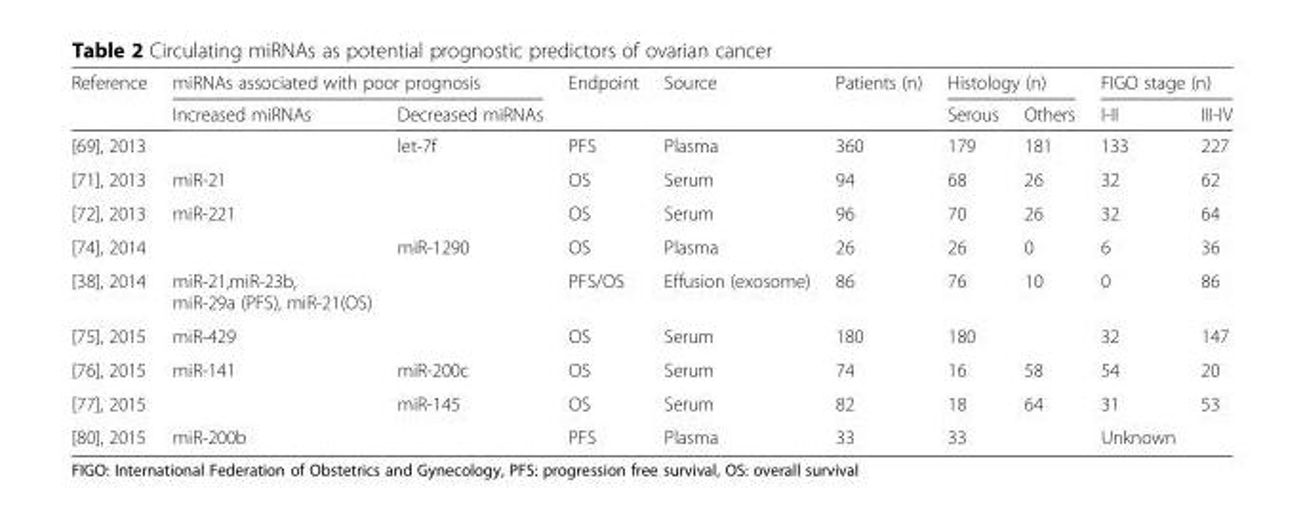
<table><thead><tr><td rowspan="2">Reference</td><td colspan="2">miRNAs associated with poor prognosis</td><td rowspan="2">Endpoint</td><td rowspan="2">Source</td><td rowspan="2">Patients (n)</td><td colspan="2">Histology (n)</td><td colspan="2">FIGO stage (n)</td></tr><tr><td>Increased miRNAs</td><td>Decreased miRNAs</td><td>Serous</td><td>Others</td><td>I-II</td><td>III-IV</td></tr></thead><tbody><tr><td>[69], 2013</td><td></td><td>let-7f</td><td>PFS</td><td>Plasma</td><td>360</td><td>179</td><td>181</td><td>133</td><td>227</td></tr><tr><td>[71], 2013</td><td>miR-21</td><td></td><td>OS</td><td>Serum</td><td>94</td><td>68</td><td>26</td><td>32</td><td>62</td></tr><tr><td>[72], 2013</td><td>miR-221</td><td></td><td>OS</td><td>Serum</td><td>96</td><td>70</td><td>26</td><td>32</td><td>64</td></tr><tr><td>[74], 2014</td><td></td><td>miR-1290</td><td>OS</td><td>Plasma</td><td>26</td><td>26</td><td>0</td><td>6</td><td>36</td></tr><tr><td>[38], 2014</td><td>miR-21,miR-23b, miR-29a (PFS), miR-21(OS)</td><td></td><td>PFS/OS</td><td>Effusion (exosome)</td><td>86</td><td>76</td><td>10</td><td>0</td><td>86</td></tr><tr><td>[75], 2015</td><td>miR-429</td><td></td><td>OS</td><td>Serum</td><td>180</td><td>180</td><td></td><td>32</td><td>147</td></tr><tr><td>[76], 2015</td><td>miR-141</td><td>miR-200c</td><td>OS</td><td>Serum</td><td>74</td><td>16</td><td>58</td><td>54</td><td>20</td></tr><tr><td>[77], 2015</td><td></td><td>miR-145</td><td>OS</td><td>Serum</td><td>82</td><td>18</td><td>64</td><td>31</td><td>53</td></tr><tr><td>[80], 2015</td><td>miR-200b</td><td></td><td>PFS</td><td>Plasma</td><td>33</td><td>33</td><td></td><td>Unknown</td><td></td></tr></tbody></table>